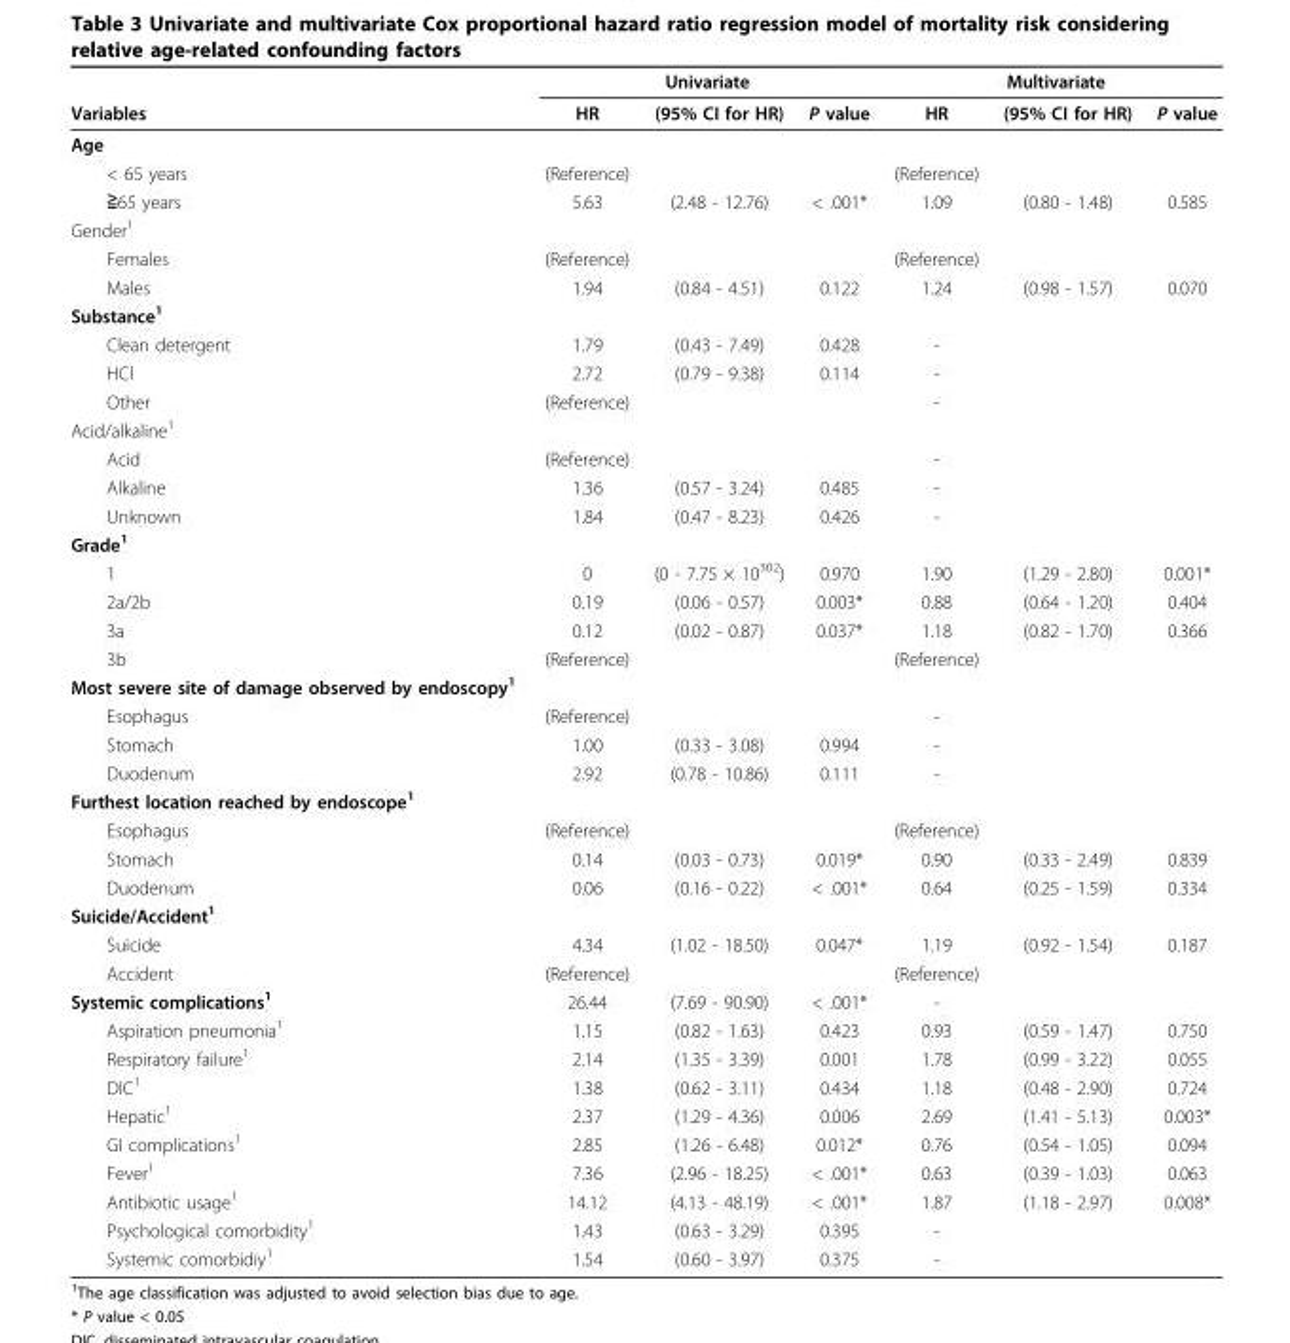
<table><thead><tr><td rowspan="2">Variables</td><td colspan="3">Univariate</td><td colspan="3">Multivariate</td></tr><tr><td>HR</td><td>(95% CI for HR)</td><td>P value</td><td>HR</td><td>(95% CI for HR)</td><td>P value</td></tr></thead><tbody><tr><td colspan="7">Age</td></tr><tr><td>&lt; 65 years</td><td>(Reference)</td><td></td><td></td><td>(Reference)</td><td></td><td></td></tr><tr><td>≧65 years</td><td>5.63</td><td>(2.48 - 12.76)</td><td>&lt; .001*</td><td>1.09</td><td>(0.80 - 1.48)</td><td>0.585</td></tr><tr><td colspan="7">Gender<sup>1</sup></td></tr><tr><td>Females</td><td>(Reference)</td><td></td><td></td><td>(Reference)</td><td></td><td></td></tr><tr><td>Males</td><td>1.94</td><td>(0.84 - 4.51)</td><td>0.122</td><td>1.24</td><td>(0.98 - 1.57)</td><td>0.070</td></tr><tr><td colspan="7">Substance<sup>1</sup></td></tr><tr><td>Clean detergent</td><td>1.79</td><td>(0.43 - 7.49)</td><td>0.428</td><td>-</td><td></td><td></td></tr><tr><td>HCl</td><td>2.72</td><td>(0.79 - 9.38)</td><td>0.114</td><td>-</td><td></td><td></td></tr><tr><td>Other</td><td>(Reference)</td><td></td><td></td><td>-</td><td></td><td></td></tr><tr><td colspan="7">Acid/alkaline<sup>1</sup></td></tr><tr><td>Acid</td><td>(Reference)</td><td></td><td></td><td>-</td><td></td><td></td></tr><tr><td>Alkaline</td><td>1.36</td><td>(0.57 - 3.24)</td><td>0.485</td><td>-</td><td></td><td></td></tr><tr><td>Unknown</td><td>1.84</td><td>(0.47 - 8.23)</td><td>0.426</td><td>-</td><td></td><td></td></tr><tr><td colspan="7">Grade<sup>1</sup></td></tr><tr><td>1</td><td>0</td><td>(0 - 7.75 × 10<sup>302</sup>)</td><td>0.970</td><td>1.90</td><td>(1.29 - 2.80)</td><td>0.001*</td></tr><tr><td>2a/2b</td><td>0.19</td><td>(0.06 - 0.57)</td><td>0.003*</td><td>0.88</td><td>(0.64 - 1.20)</td><td>0.404</td></tr><tr><td>3a</td><td>0.12</td><td>(0.02 - 0.87)</td><td>0.037*</td><td>1.18</td><td>(0.82 - 1.70)</td><td>0.366</td></tr><tr><td>3b</td><td>(Reference)</td><td></td><td></td><td>(Reference)</td><td></td><td></td></tr><tr><td colspan="7">Most severe site of damage observed by endoscopy<sup>1</sup></td></tr><tr><td>Esophagus</td><td>(Reference)</td><td></td><td></td><td>-</td><td></td><td></td></tr><tr><td>Stomach</td><td>1.00</td><td>(0.33 - 3.08)</td><td>0.994</td><td>-</td><td></td><td></td></tr><tr><td>Duodenum</td><td>2.92</td><td>(0.78 - 10.86)</td><td>0.111</td><td>-</td><td></td><td></td></tr><tr><td colspan="7">Furthest location reached by endoscope<sup>1</sup></td></tr><tr><td>Esophagus</td><td>(Reference)</td><td></td><td></td><td>(Reference)</td><td></td><td></td></tr><tr><td>Stomach</td><td>0.14</td><td>(0.03 - 0.73)</td><td>0.019*</td><td>0.90</td><td>(0.33 - 2.49)</td><td>0.839</td></tr><tr><td>Duodenum</td><td>0.06</td><td>(0.16 - 0.22)</td><td>&lt; .001*</td><td>0.64</td><td>(0.25 - 1.59)</td><td>0.334</td></tr><tr><td colspan="7">Suicide/Accident<sup>1</sup></td></tr><tr><td>Suicide</td><td>4.34</td><td>(1.02 - 18.50)</td><td>0.047*</td><td>1.19</td><td>(0.92 - 1.54)</td><td>0.187</td></tr><tr><td>Accident</td><td>(Reference)</td><td></td><td></td><td>(Reference)</td><td></td><td></td></tr><tr><td>Systemic complications<sup>1</sup></td><td>26.44</td><td>(7.69 - 90.90)</td><td>&lt; .001*</td><td>-</td><td></td><td></td></tr><tr><td>Aspiration pneumonia<sup>1</sup></td><td>1.15</td><td>(0.82 - 1.63)</td><td>0.423</td><td>0.93</td><td>(0.59 - 1.47)</td><td>0.750</td></tr><tr><td>Respiratory failure<sup>1</sup></td><td>2.14</td><td>(1.35 - 3.39)</td><td>0.001</td><td>1.78</td><td>(0.99 - 3.22)</td><td>0.055</td></tr><tr><td>DIC<sup>1</sup></td><td>1.38</td><td>(0.62 - 3.11)</td><td>0.434</td><td>1.18</td><td>(0.48 - 2.90)</td><td>0.724</td></tr><tr><td>Hepatic<sup>1</sup></td><td>2.37</td><td>(1.29 - 4.36)</td><td>0.006</td><td>2.69</td><td>(1.41 - 5.13)</td><td>0.003*</td></tr><tr><td>GI complications<sup>1</sup></td><td>2.85</td><td>(1.26 - 6.48)</td><td>0.012*</td><td>0.76</td><td>(0.54 - 1.05)</td><td>0.094</td></tr><tr><td>Fever<sup>1</sup></td><td>7.36</td><td>(2.96 - 18.25)</td><td>&lt; .001*</td><td>0.63</td><td>(0.39 - 1.03)</td><td>0.063</td></tr><tr><td>Antibiotic usage<sup>1</sup></td><td>14.12</td><td>(4.13 - 48.19)</td><td>&lt; .001*</td><td>1.87</td><td>(1.18 - 2.97)</td><td>0.008*</td></tr><tr><td>Psychological comorbidity<sup>1</sup></td><td>1.43</td><td>(0.63 - 3.29)</td><td>0.395</td><td>-</td><td></td><td></td></tr><tr><td>Systemic comorbidiy<sup>1</sup></td><td>1.54</td><td>(0.60 - 3.97)</td><td>0.375</td><td>-</td><td></td><td></td></tr></tbody></table>